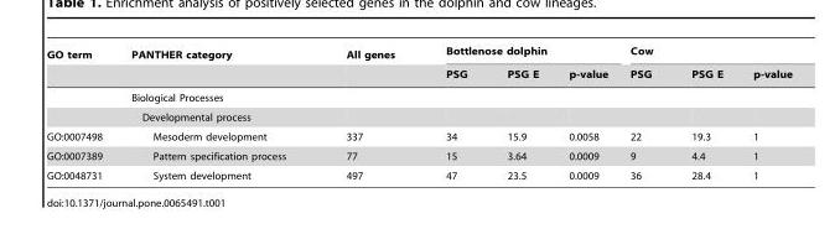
<table><thead><tr><td rowspan="2">GO term</td><td rowspan="2">PANTHER category</td><td rowspan="2">All genes</td><td colspan="3">Bottlenose dolphin</td><td colspan="3">Cow</td></tr><tr><td>PSG</td><td>PSG E</td><td>p-value</td><td>PSG</td><td>PSG E</td><td>p-value</td></tr></thead><tbody><tr><td></td><td>Biological Processes</td><td></td><td></td><td></td><td></td><td></td><td></td><td></td></tr><tr><td></td><td>Developmental process</td><td></td><td></td><td></td><td></td><td></td><td></td><td></td></tr><tr><td>GO:0007498</td><td>Mesoderm development</td><td>337</td><td>34</td><td>15.9</td><td>0.0058</td><td>22</td><td>19.3</td><td>1</td></tr><tr><td>GO:0007389</td><td>Pattern specification process</td><td>77</td><td>15</td><td>3.64</td><td>0.0009</td><td>9</td><td>4.4</td><td>1</td></tr><tr><td>GO:0048731</td><td>System development</td><td>497</td><td>47</td><td>23.5</td><td>0.0009</td><td>36</td><td>28.4</td><td>1</td></tr></tbody></table>